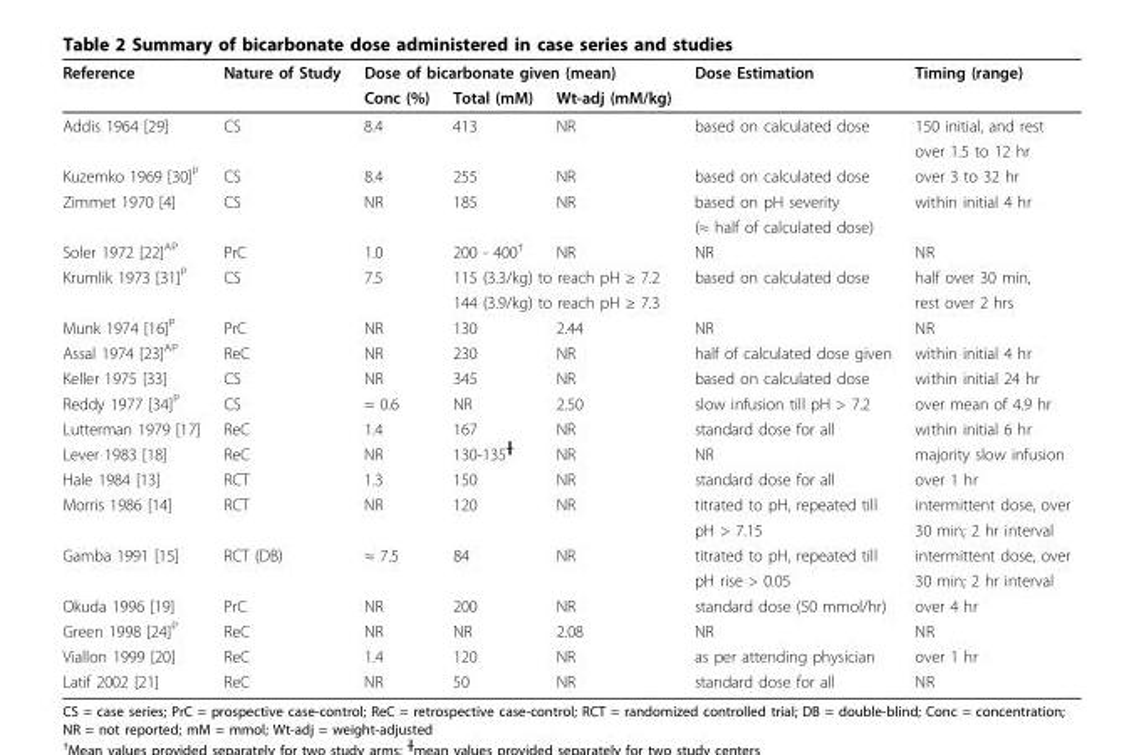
<table><thead><tr><td rowspan="2">Reference</td><td rowspan="2">Nature of Study</td><td colspan="3">Dose of bicarbonate given (mean)</td><td rowspan="2">Dose Estimation</td><td rowspan="2">Timing (range)</td></tr><tr><td>Conc (%)</td><td>Total (mM)</td><td>Wt-adj (mM/kg)</td></tr></thead><tbody><tr><td rowspan="2">Addis 1964 [29]</td><td>CS</td><td>8.4</td><td>413</td><td>NR</td><td>based on calculated dose</td><td>150 initial, and rest</td></tr><tr><td></td><td></td><td></td><td></td><td></td><td>over 1.5 to 12 hr</td></tr><tr><td>Kuzemko 1969 [30]<sup>P</sup></td><td>CS</td><td>8.4</td><td>255</td><td>NR</td><td>based on calculated dose</td><td>over 3 to 32 hr</td></tr><tr><td rowspan="2">Zimmet 1970 [4]</td><td>CS</td><td>NR</td><td>185</td><td>NR</td><td>based on pH severity</td><td>within initial 4 hr</td></tr><tr><td></td><td></td><td></td><td></td><td>(≈ half of calculated dose)</td><td></td></tr><tr><td>Soler 1972 [22]<sup>AP</sup></td><td>PrC</td><td>1.0</td><td>200 - 400<sup>†</sup></td><td>NR</td><td>NR</td><td>NR</td></tr><tr><td rowspan="2">Krumlik 1973 [31]<sup>P</sup></td><td>CS</td><td>7.5</td><td colspan="2">115 (3.3/kg) to reach pH ≥ 7.2</td><td>based on calculated dose</td><td>half over 30 min,</td></tr><tr><td></td><td></td><td colspan="2">144 (3.9/kg) to reach pH ≥ 7.3</td><td></td><td>rest over 2 hrs</td></tr><tr><td>Munk 1974 [16]<sup>P</sup></td><td>PrC</td><td>NR</td><td>130</td><td>2.44</td><td>NR</td><td>NR</td></tr><tr><td>Assal 1974 [23]<sup>AP</sup></td><td>ReC</td><td>NR</td><td>230</td><td>NR</td><td>half of calculated dose given</td><td>within initial 4 hr</td></tr><tr><td>Keller 1975 [33]</td><td>CS</td><td>NR</td><td>345</td><td>NR</td><td>based on calculated dose</td><td>within initial 24 hr</td></tr><tr><td>Reddy 1977 [34]<sup>P</sup></td><td>CS</td><td>≈ 0.6</td><td>NR</td><td>2.50</td><td>slow infusion till pH &gt; 7.2</td><td>over mean of 4.9 hr</td></tr><tr><td>Lutterman 1979 [17]</td><td>ReC</td><td>1.4</td><td>167</td><td>NR</td><td>standard dose for all</td><td>within initial 6 hr</td></tr><tr><td>Lever 1983 [18]</td><td>ReC</td><td>NR</td><td>130-135<sup>╫</sup></td><td>NR</td><td>NR</td><td>majority slow infusion</td></tr><tr><td>Hale 1984 [13]</td><td>RCT</td><td>1.3</td><td>150</td><td>NR</td><td>standard dose for all</td><td>over 1 hr</td></tr><tr><td rowspan="2">Morris 1986 [14]</td><td>RCT</td><td>NR</td><td>120</td><td>NR</td><td>titrated to pH, repeated till</td><td>intermittent dose, over</td></tr><tr><td></td><td></td><td></td><td></td><td>pH &gt; 7.15</td><td>30 min; 2 hr interval</td></tr><tr><td rowspan="2">Gamba 1991 [15]</td><td>RCT (DB)</td><td>≈ 7.5</td><td>84</td><td>NR</td><td>titrated to pH, repeated till</td><td>intermittent dose, over</td></tr><tr><td></td><td></td><td></td><td></td><td>pH rise &gt; 0.05</td><td>30 min; 2 hr interval</td></tr><tr><td>Okuda 1996 [19]</td><td>PrC</td><td>NR</td><td>200</td><td>NR</td><td>standard dose (50 mmol/hr)</td><td>over 4 hr</td></tr><tr><td>Green 1998 [24]<sup>P</sup></td><td>ReC</td><td>NR</td><td>NR</td><td>2.08</td><td>NR</td><td>NR</td></tr><tr><td>Viallon 1999 [20]</td><td>ReC</td><td>1.4</td><td>120</td><td>NR</td><td>as per attending physician</td><td>over 1 hr</td></tr><tr><td>Latif 2002 [21]</td><td>ReC</td><td>NR</td><td>50</td><td>NR</td><td>standard dose for all</td><td>NR</td></tr></tbody></table>